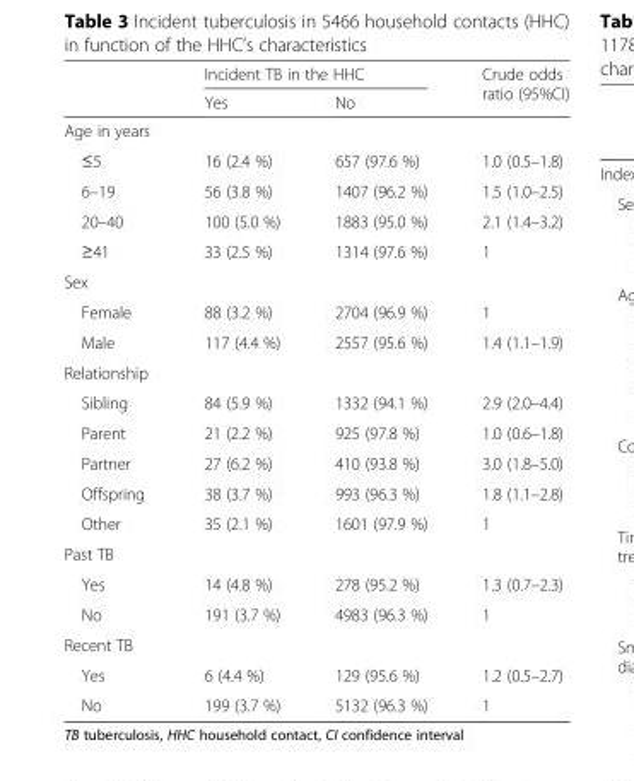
<table><thead><tr><td rowspan="2"></td><td colspan="2">Incident TB in the HHC</td><td rowspan="2">Crude odds ratio (95%CI)</td></tr><tr><td>Yes</td><td>No</td></tr></thead><tbody><tr><td colspan="4">Age in years</td></tr><tr><td>≤5</td><td>16 (2.4 %)</td><td>657 (97.6 %)</td><td>1.0 (0.5–1.8)</td></tr><tr><td>6–19</td><td>56 (3.8 %)</td><td>1407 (96.2 %)</td><td>1.5 (1.0–2.5)</td></tr><tr><td>20–40</td><td>100 (5.0 %)</td><td>1883 (95.0 %)</td><td>2.1 (1.4–3.2)</td></tr><tr><td>≥41</td><td>33 (2.5 %)</td><td>1314 (97.6 %)</td><td>1</td></tr><tr><td colspan="4">Sex</td></tr><tr><td>Female</td><td>88 (3.2 %)</td><td>2704 (96.9 %)</td><td>1</td></tr><tr><td>Male</td><td>117 (4.4 %)</td><td>2557 (95.6 %)</td><td>1.4 (1.1–1.9)</td></tr><tr><td colspan="4">Relationship</td></tr><tr><td>Sibling</td><td>84 (5.9 %)</td><td>1332 (94.1 %)</td><td>2.9 (2.0–4.4)</td></tr><tr><td>Parent</td><td>21 (2.2 %)</td><td>925 (97.8 %)</td><td>1.0 (0.6–1.8)</td></tr><tr><td>Partner</td><td>27 (6.2 %)</td><td>410 (93.8 %)</td><td>3.0 (1.8–5.0)</td></tr><tr><td>Offspring</td><td>38 (3.7 %)</td><td>993 (96.3 %)</td><td>1.8 (1.1–2.8)</td></tr><tr><td>Other</td><td>35 (2.1 %)</td><td>1601 (97.9 %)</td><td>1</td></tr><tr><td colspan="4">Past TB</td></tr><tr><td>Yes</td><td>14 (4.8 %)</td><td>278 (95.2 %)</td><td>1.3 (0.7–2.3)</td></tr><tr><td>No</td><td>191 (3.7 %)</td><td>4983 (96.3 %)</td><td>1</td></tr><tr><td colspan="4">Recent TB</td></tr><tr><td>Yes</td><td>6 (4.4 %)</td><td>129 (95.6 %)</td><td>1.2 (0.5–2.7)</td></tr><tr><td>No</td><td>199 (3.7 %)</td><td>5132 (96.3 %)</td><td>1</td></tr></tbody></table>